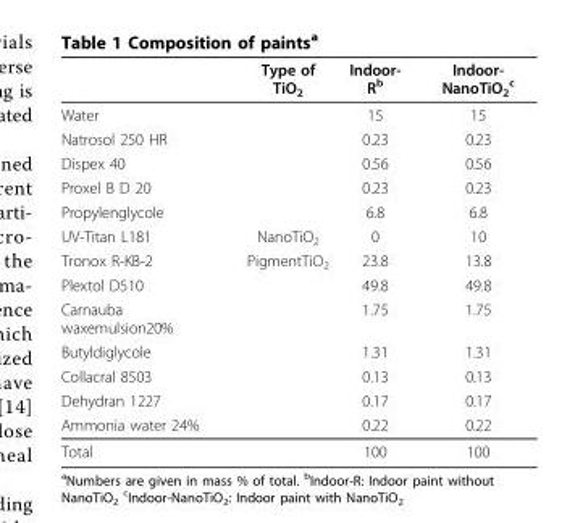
<table><thead><tr><td></td><td>Type of TiO<sub>2</sub></td><td>Indoor- R<sup>b</sup></td><td>Indoor- NanoTiO<sub>2</sub> <sup>c</sup></td></tr></thead><tbody><tr><td>Water</td><td></td><td>15</td><td>15</td></tr><tr><td>Natrosol 250 HR</td><td></td><td>0.23</td><td>0.23</td></tr><tr><td>Dispex 40</td><td></td><td>0.56</td><td>0.56</td></tr><tr><td>Proxel B D 20</td><td></td><td>0.23</td><td>0.23</td></tr><tr><td>Propylenglycole</td><td></td><td>6.8</td><td>6.8</td></tr><tr><td>UV-Titan L181</td><td>NanoTiO<sub>2</sub></td><td>0</td><td>10</td></tr><tr><td>Tronox R-KB-2</td><td>PigmentTiO<sub>2</sub></td><td>23.8</td><td>13.8</td></tr><tr><td>Plextol D510</td><td></td><td>49.8</td><td>49.8</td></tr><tr><td>Carnauba waxemulsion20%</td><td></td><td>1.75</td><td>1.75</td></tr><tr><td>Butyldiglycole</td><td></td><td>1.31</td><td>1.31</td></tr><tr><td>Collacral 8503</td><td></td><td>0.13</td><td>0.13</td></tr><tr><td>Dehydran 1227</td><td></td><td>0.17</td><td>0.17</td></tr><tr><td>Ammonia water 24%</td><td></td><td>0.22</td><td>0.22</td></tr><tr><td>Total</td><td></td><td>100</td><td>100</td></tr></tbody></table>